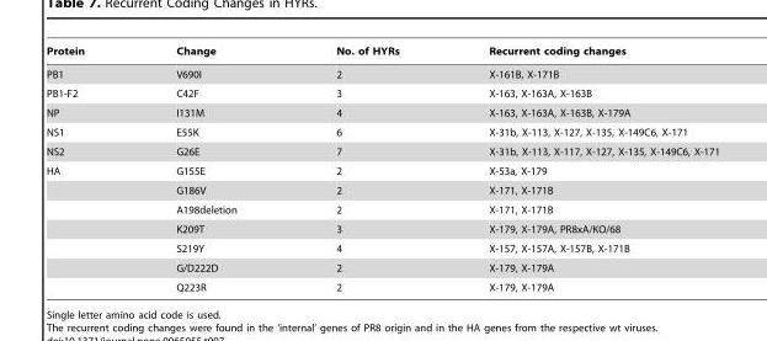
<table><thead><tr><td>Protein</td><td>Change</td><td>No. of HYRs</td><td>Recurrent coding changes</td></tr></thead><tbody><tr><td>PB1</td><td>V690I</td><td>2</td><td>X-161B, X-171B</td></tr><tr><td>PB1-F2</td><td>C42F</td><td>3</td><td>X-163, X-163A, X-163B</td></tr><tr><td>NP</td><td>I131M</td><td>4</td><td>X-163, X-163A, X-163B, X-179A</td></tr><tr><td>NS1</td><td>E55K</td><td>6</td><td>X-31b, X-113, X-127, X-135, X-149C6, X-171</td></tr><tr><td>NS2</td><td>G26E</td><td>7</td><td>X-31b, X-113, X-117, X-127, X-135, X-149C6, X-171</td></tr><tr><td rowspan="7">HA</td><td>G155E</td><td>2</td><td>X-53a, X-179</td></tr><tr><td>G186V</td><td>2</td><td>X-171, X-171B</td></tr><tr><td>A198deletion</td><td>2</td><td>X-171, X-171B</td></tr><tr><td>K209T</td><td>3</td><td>X-179, X-179A, PR8xA/KO/68</td></tr><tr><td>S219Y</td><td>4</td><td>X-157, X-157A, X-157B, X-171B</td></tr><tr><td>G/D222D</td><td>2</td><td>X-179, X-179A</td></tr><tr><td>Q223R</td><td>2</td><td>X-179, X-179A</td></tr></tbody></table>